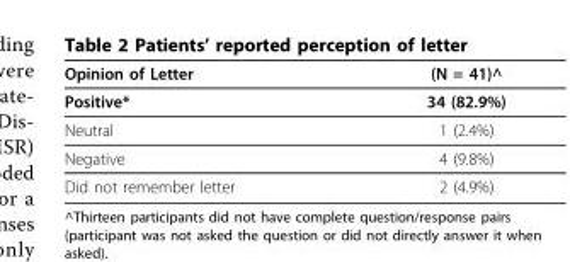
<table><thead><tr><td>Opinion of Letter</td><td>(N = 41)^</td></tr></thead><tbody><tr><td>Positive*</td><td>34 (82.9%)</td></tr><tr><td>Neutral</td><td>1 (2.4%)</td></tr><tr><td>Negative</td><td>4 (9.8%)</td></tr><tr><td>Did not remember letter</td><td>2 (4.9%)</td></tr></tbody></table>